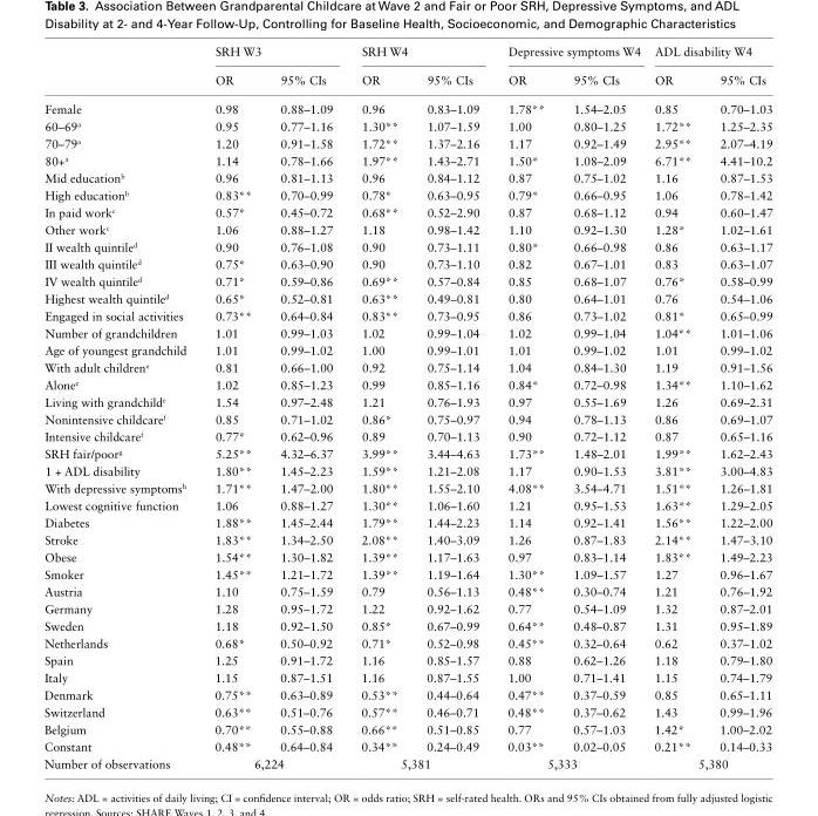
<table><thead><tr><td rowspan="2"></td><td colspan="2">SRH W3</td><td colspan="2">SRH W4</td><td colspan="2">Depressive symptoms W4</td><td colspan="2">ADL disability W4</td></tr><tr><td>OR</td><td>95% CIs</td><td>OR</td><td>95% CIs</td><td>OR</td><td>95% CIs</td><td>OR</td><td>95% CIs</td></tr></thead><tbody><tr><td>Female</td><td>0.98</td><td>0.88–1.09</td><td>0.96</td><td>0.83–1.09</td><td>1.78**</td><td>1.54–2.05</td><td>0.85</td><td>0.70–1.03</td></tr><tr><td>60–69<sup>a</sup></td><td>0.95</td><td>0.77–1.16</td><td>1.30**</td><td>1.07–1.59</td><td>1.00</td><td>0.80–1.25</td><td>1.72**</td><td>1.25–2.35</td></tr><tr><td>70–79<sup>a</sup></td><td>1.20</td><td>0.91–1.58</td><td>1.72**</td><td>1.37–2.16</td><td>1.17</td><td>0.92–1.49</td><td>2.95**</td><td>2.07–4.19</td></tr><tr><td>80+<sup>a</sup></td><td>1.14</td><td>0.78–1.66</td><td>1.97**</td><td>1.43–2.71</td><td>1.50*</td><td>1.08–2.09</td><td>6.71**</td><td>4.41–10.2</td></tr><tr><td>Mid education<sup>b</sup></td><td>0.96</td><td>0.81–1.13</td><td>0.96</td><td>0.84–1.12</td><td>0.87</td><td>0.75–1.02</td><td>1.16</td><td>0.87–1.53</td></tr><tr><td>High education<sup>b</sup></td><td>0.83**</td><td>0.70–0.99</td><td>0.78*</td><td>0.63–0.95</td><td>0.79*</td><td>0.66–0.95</td><td>1.06</td><td>0.78–1.42</td></tr><tr><td>In paid work<sup>c</sup></td><td>0.57*</td><td>0.45–0.72</td><td>0.68**</td><td>0.52–2.90</td><td>0.87</td><td>0.68–1.12</td><td>0.94</td><td>0.60–1.47</td></tr><tr><td>Other work<sup>c</sup></td><td>1.06</td><td>0.88–1.27</td><td>1.18</td><td>0.98–1.42</td><td>1.10</td><td>0.92–1.30</td><td>1.28*</td><td>1.02–1.61</td></tr><tr><td>II wealth quintile<sup>d</sup></td><td>0.90</td><td>0.76–1.08</td><td>0.90</td><td>0.73–1.11</td><td>0.80*</td><td>0.66–0.98</td><td>0.86</td><td>0.63–1.17</td></tr><tr><td>III wealth quintile<sup>d</sup></td><td>0.75*</td><td>0.63–0.90</td><td>0.90</td><td>0.73–1.10</td><td>0.82</td><td>0.67–1.01</td><td>0.83</td><td>0.63–1.07</td></tr><tr><td>IV wealth quintile<sup>d</sup></td><td>0.71*</td><td>0.59–0.86</td><td>0.69**</td><td>0.57–0.84</td><td>0.85</td><td>0.68–1.07</td><td>0.76*</td><td>0.58–0.99</td></tr><tr><td>Highest wealth quintile<sup>d</sup></td><td>0.65*</td><td>0.52–0.81</td><td>0.63**</td><td>0.49–0.81</td><td>0.80</td><td>0.64–1.01</td><td>0.76</td><td>0.54–1.06</td></tr><tr><td>Engaged in social activities</td><td>0.73**</td><td>0.64–0.84</td><td>0.83**</td><td>0.73–0.95</td><td>0.86</td><td>0.73–1.02</td><td>0.81*</td><td>0.65–0.99</td></tr><tr><td>Number of grandchildren</td><td>1.01</td><td>0.99–1.03</td><td>1.02</td><td>0.99–1.04</td><td>1.02</td><td>0.99–1.04</td><td>1.04**</td><td>1.01–1.06</td></tr><tr><td>Age of youngest grandchild</td><td>1.01</td><td>0.99–1.02</td><td>1.00</td><td>0.99–1.01</td><td>1.01</td><td>0.99–1.02</td><td>1.01</td><td>0.99–1.02</td></tr><tr><td>With adult children<sup>e</sup></td><td>0.81</td><td>0.66–1.00</td><td>0.92</td><td>0.75–1.14</td><td>1.04</td><td>0.84–1.30</td><td>1.19</td><td>0.91–1.56</td></tr><tr><td>Alone<sup>e</sup></td><td>1.02</td><td>0.85–1.23</td><td>0.99</td><td>0.85–1.16</td><td>0.84*</td><td>0.72–0.98</td><td>1.34**</td><td>1.10–1.62</td></tr><tr><td>Living with grandchild<sup>e</sup></td><td>1.54</td><td>0.97–2.48</td><td>1.21</td><td>0.76–1.93</td><td>0.97</td><td>0.55–1.69</td><td>1.26</td><td>0.69–2.31</td></tr><tr><td>Nonintensive childcare<sup>f</sup></td><td>0.85</td><td>0.71–1.02</td><td>0.86*</td><td>0.75–0.97</td><td>0.94</td><td>0.78–1.13</td><td>0.86</td><td>0.69–1.07</td></tr><tr><td>Intensive childcare<sup>f</sup></td><td>0.77*</td><td>0.62–0.96</td><td>0.89</td><td>0.70–1.13</td><td>0.90</td><td>0.72–1.12</td><td>0.87</td><td>0.65–1.16</td></tr><tr><td>SRH fair/poor<sup>g</sup></td><td>5.25**</td><td>4.32–6.37</td><td>3.99**</td><td>3.44–4.63</td><td>1.73**</td><td>1.48–2.01</td><td>1.99**</td><td>1.62–2.43</td></tr><tr><td>1 + ADL disability</td><td>1.80**</td><td>1.45–2.23</td><td>1.59**</td><td>1.21–2.08</td><td>1.17</td><td>0.90–1.53</td><td>3.81**</td><td>3.00–4.83</td></tr><tr><td>With depressive symptoms<sup>h</sup></td><td>1.71**</td><td>1.47–2.00</td><td>1.80**</td><td>1.55–2.10</td><td>4.08**</td><td>3.54–4.71</td><td>1.51**</td><td>1.26–1.81</td></tr><tr><td>Lowest cognitive function</td><td>1.06</td><td>0.88–1.27</td><td>1.30**</td><td>1.06–1.60</td><td>1.21</td><td>0.95–1.53</td><td>1.63**</td><td>1.29–2.05</td></tr><tr><td>Diabetes</td><td>1.88**</td><td>1.45–2.44</td><td>1.79**</td><td>1.44–2.23</td><td>1.14</td><td>0.92–1.41</td><td>1.56**</td><td>1.22–2.00</td></tr><tr><td>Stroke</td><td>1.83**</td><td>1.34–2.50</td><td>2.08**</td><td>1.40–3.09</td><td>1.26</td><td>0.87–1.83</td><td>2.14**</td><td>1.47–3.10</td></tr><tr><td>Obese</td><td>1.54**</td><td>1.30–1.82</td><td>1.39**</td><td>1.17–1.63</td><td>0.97</td><td>0.83–1.14</td><td>1.83**</td><td>1.49–2.23</td></tr><tr><td>Smoker</td><td>1.45**</td><td>1.21–1.72</td><td>1.39**</td><td>1.19–1.64</td><td>1.30**</td><td>1.09–1.57</td><td>1.27</td><td>0.96–1.67</td></tr><tr><td>Austria</td><td>1.10</td><td>0.75–1.59</td><td>0.79</td><td>0.56–1.13</td><td>0.48**</td><td>0.30–0.74</td><td>1.21</td><td>0.76–1.92</td></tr><tr><td>Germany</td><td>1.28</td><td>0.95–1.72</td><td>1.22</td><td>0.92–1.62</td><td>0.77</td><td>0.54–1.09</td><td>1.32</td><td>0.87–2.01</td></tr><tr><td>Sweden</td><td>1.18</td><td>0.92–1.50</td><td>0.85*</td><td>0.67–0.99</td><td>0.64**</td><td>0.48–0.87</td><td>1.31</td><td>0.95–1.89</td></tr><tr><td>Netherlands</td><td>0.68*</td><td>0.50–0.92</td><td>0.71*</td><td>0.52–0.98</td><td>0.45**</td><td>0.32–0.64</td><td>0.62</td><td>0.37–1.02</td></tr><tr><td>Spain</td><td>1.25</td><td>0.91–1.72</td><td>1.16</td><td>0.85–1.57</td><td>0.88</td><td>0.62–1.26</td><td>1.18</td><td>0.79–1.80</td></tr><tr><td>Italy</td><td>1.15</td><td>0.87–1.51</td><td>1.16</td><td>0.87–1.55</td><td>1.00</td><td>0.71–1.41</td><td>1.15</td><td>0.74–1.79</td></tr><tr><td>Denmark</td><td>0.75**</td><td>0.63–0.89</td><td>0.53**</td><td>0.44–0.64</td><td>0.47**</td><td>0.37–0.59</td><td>0.85</td><td>0.65–1.11</td></tr><tr><td>Switzerland</td><td>0.63**</td><td>0.51–0.76</td><td>0.57**</td><td>0.46–0.71</td><td>0.48**</td><td>0.37–0.62</td><td>1.43</td><td>0.99–1.96</td></tr><tr><td>Belgium</td><td>0.70**</td><td>0.55–0.88</td><td>0.66**</td><td>0.51–0.85</td><td>0.77</td><td>0.57–1.03</td><td>1.42*</td><td>1.00–2.02</td></tr><tr><td>Constant</td><td>0.48**</td><td>0.64–0.84</td><td>0.34**</td><td>0.24–0.49</td><td>0.03**</td><td>0.02–0.05</td><td>0.21**</td><td>0.14–0.33</td></tr><tr><td>Number of observations</td><td colspan="2">6,224</td><td colspan="2">5,381</td><td colspan="2">5,333</td><td colspan="2">5,380</td></tr></tbody></table>